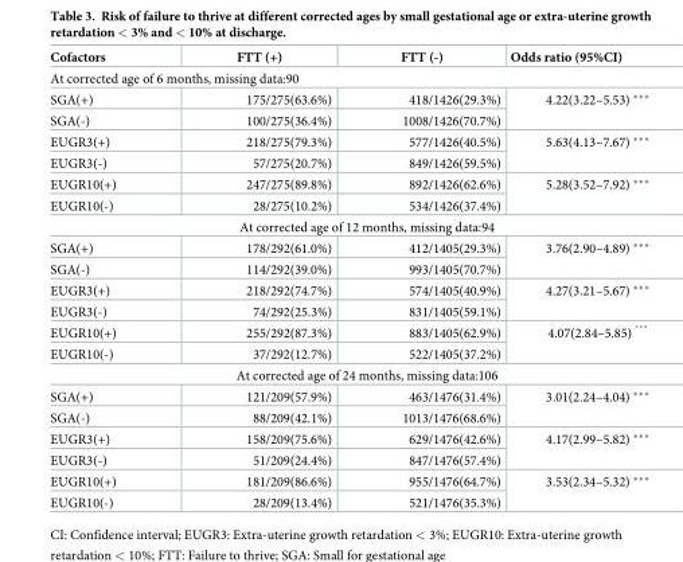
<table><thead><tr><td>Cofactors</td><td>FTT (+)</td><td>FTT (-)</td><td>Odds ratio (95%CI)</td></tr></thead><tbody><tr><td colspan="4">At corrected age of 6 months, missing data:90</td></tr><tr><td>SGA(+)</td><td>175/275(63.6%)</td><td>418/1426(29.3%)</td><td rowspan="2">4.22(3.22–5.53)</td></tr><tr><td>SGA(-)</td><td>100/275(36.4%)</td><td>1008/1426(70.7%)</td></tr><tr><td>EUGR3(+)</td><td>218/275(79.3%)</td><td>577/1426(40.5%)</td><td rowspan="2">5.63(4.13–7.67)</td></tr><tr><td>EUGR3(-)</td><td>57/275(20.7%)</td><td>849/1426(59.5%)</td></tr><tr><td>EUGR10(+)</td><td>247/275(89.8%)</td><td>892/1426(62.6%)</td><td rowspan="2">5.28(3.52–7.92)</td></tr><tr><td>EUGR10(-)</td><td>28/275(10.2%)</td><td>534/1426(37.4%)</td></tr><tr><td colspan="4">At corrected age of 12 months, missing data:94</td></tr><tr><td>SGA(+)</td><td>178/292(61.0%)</td><td>412/1405(29.3%)</td><td rowspan="2">3.76(2.90–4.89)</td></tr><tr><td>SGA(-)</td><td>114/292(39.0%)</td><td>993/1405(70.7%)</td></tr><tr><td>EUGR3(+)</td><td>218/292(74.7%)</td><td>574/1405(40.9%)</td><td rowspan="2">4.27(3.21–5.67)</td></tr><tr><td>EUGR3(-)</td><td>74/292(25.3%)</td><td>831/1405(59.1%)</td></tr><tr><td>EUGR10(+)</td><td>255/292(87.3%)</td><td>883/1405(62.9%)</td><td rowspan="2">4.07(2.84–5.85)</td></tr><tr><td>EUGR10(-)</td><td>37/292(12.7%)</td><td>522/1405(37.2%)</td></tr><tr><td colspan="4">At corrected age of 24 months, missing data:106</td></tr><tr><td>SGA(+)</td><td>121/209(57.9%)</td><td>463/1476(31.4%)</td><td rowspan="2">3.01(2.24–4.04)</td></tr><tr><td>SGA(-)</td><td>88/209(42.1%)</td><td>1013/1476(68.6%)</td></tr><tr><td>EUGR3(+)</td><td>158/209(75.6%)</td><td>629/1476(42.6%)</td><td rowspan="2">4.17(2.99–5.82)</td></tr><tr><td>EUGR3(-)</td><td>51/209(24.4%)</td><td>847/1476(57.4%)</td></tr><tr><td>EUGR10(+)</td><td>181/209(86.6%)</td><td>955/1476(64.7%)</td><td rowspan="2">3.53(2.34–5.32)</td></tr><tr><td>EUGR10(-)</td><td>28/209(13.4%)</td><td>521/1476(35.3%)</td></tr></tbody></table>